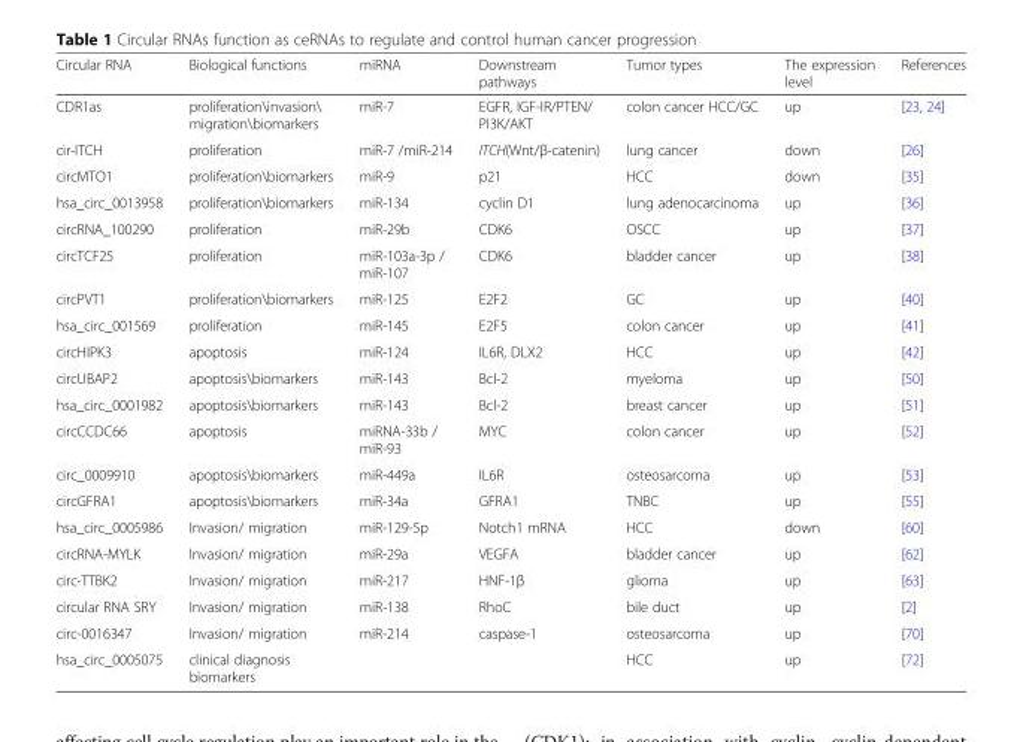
<table><thead><tr><td>Circular RNA</td><td>Biological functions</td><td>miRNA</td><td>Downstream pathways</td><td>Tumor types</td><td>The expression level</td><td>References</td></tr></thead><tbody><tr><td>CDR1as</td><td>proliferation\invasion\ migration\biomarkers</td><td>miR-7</td><td>EGFR, IGF-IR/PTEN/ PI3K/AKT</td><td>colon cancer HCC/GC</td><td>up</td><td>[23, 24]</td></tr><tr><td>cir-ITCH</td><td>proliferation</td><td>miR-7 /miR-214</td><td>ITCH(Wnt/β-catenin)</td><td>lung cancer</td><td>down</td><td>[26]</td></tr><tr><td>circMTO1</td><td>proliferation\biomarkers</td><td>miR-9</td><td>p21</td><td>HCC</td><td>down</td><td>[35]</td></tr><tr><td>hsa_circ_0013958</td><td>proliferation\biomarkers</td><td>miR-134</td><td>cyclin D1</td><td>lung adenocarcinoma</td><td>up</td><td>[36]</td></tr><tr><td>circRNA_100290</td><td>proliferation</td><td>miR-29b</td><td>CDK6</td><td>OSCC</td><td>up</td><td>[37]</td></tr><tr><td>circTCF25</td><td>proliferation</td><td>miR-103a-3p / miR-107</td><td>CDK6</td><td>bladder cancer</td><td>up</td><td>[38]</td></tr><tr><td>circPVT1</td><td>proliferation\biomarkers</td><td>miR-125</td><td>E2F2</td><td>GC</td><td>up</td><td>[40]</td></tr><tr><td>hsa_circ_001569</td><td>proliferation</td><td>miR-145</td><td>E2F5</td><td>colon cancer</td><td>up</td><td>[41]</td></tr><tr><td>circHIPK3</td><td>apoptosis</td><td>miR-124</td><td>IL6R, DLX2</td><td>HCC</td><td>up</td><td>[42]</td></tr><tr><td>circUBAP2</td><td>apoptosis\biomarkers</td><td>miR-143</td><td>Bcl-2</td><td>myeloma</td><td>up</td><td>[50]</td></tr><tr><td>hsa_circ_0001982</td><td>apoptosis\biomarkers</td><td>miR-143</td><td>Bcl-2</td><td>breast cancer</td><td>up</td><td>[51]</td></tr><tr><td>circCCDC66</td><td>apoptosis</td><td>miRNA-33b / miR-93</td><td>MYC</td><td>colon cancer</td><td>up</td><td>[52]</td></tr><tr><td>circ_0009910</td><td>apoptosis\biomarkers</td><td>miR-449a</td><td>IL6R</td><td>osteosarcoma</td><td>up</td><td>[53]</td></tr><tr><td>circGFRA1</td><td>apoptosis\biomarkers</td><td>miR-34a</td><td>GFRA1</td><td>TNBC</td><td>up</td><td>[55]</td></tr><tr><td>hsa_circ_0005986</td><td>Invasion/ migration</td><td>miR-129-5p</td><td>Notch1 mRNA</td><td>HCC</td><td>down</td><td>[60]</td></tr><tr><td>circRNA-MYLK</td><td>Invasion/ migration</td><td>miR-29a</td><td>VEGFA</td><td>bladder cancer</td><td>up</td><td>[62]</td></tr><tr><td>circ-TTBK2</td><td>Invasion/ migration</td><td>miR-217</td><td>HNF-1β</td><td>glioma</td><td>up</td><td>[63]</td></tr><tr><td>circular RNA SRY</td><td>Invasion/ migration</td><td>miR-138</td><td>RhoC</td><td>bile duct</td><td>up</td><td>[2]</td></tr><tr><td>circ-0016347</td><td>Invasion/ migration</td><td>miR-214</td><td>caspase-1</td><td>osteosarcoma</td><td>up</td><td>[70]</td></tr><tr><td>hsa_circ_0005075</td><td>clinical diagnosis biomarkers</td><td></td><td></td><td>HCC</td><td>up</td><td>[72]</td></tr></tbody></table>